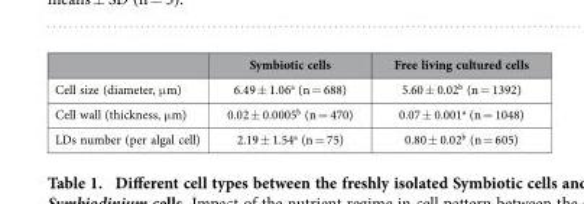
<table><thead><tr><td></td><td>Symbiotic cells</td><td>Free living cultured cells</td></tr></thead><tbody><tr><td>Cell size (diameter, μ m)</td><td>6.49 ± 1.06<sup>a</sup> (n = 688)</td><td>5.60 ± 0.02<sup>b</sup> (n = 1392)</td></tr><tr><td>Cell wall (thickness, μ m)</td><td>0.02 ± 0.0005<sup>b</sup> (n = 470)</td><td>0.07 ± 0.001<sup>a</sup> (n = 1048)</td></tr><tr><td>LDs number (per algal cell)</td><td>2.19 ± 1.54<sup>a</sup> (n = 75)</td><td>0.80 ± 0.02<sup>b</sup> (n = 605)</td></tr></tbody></table>